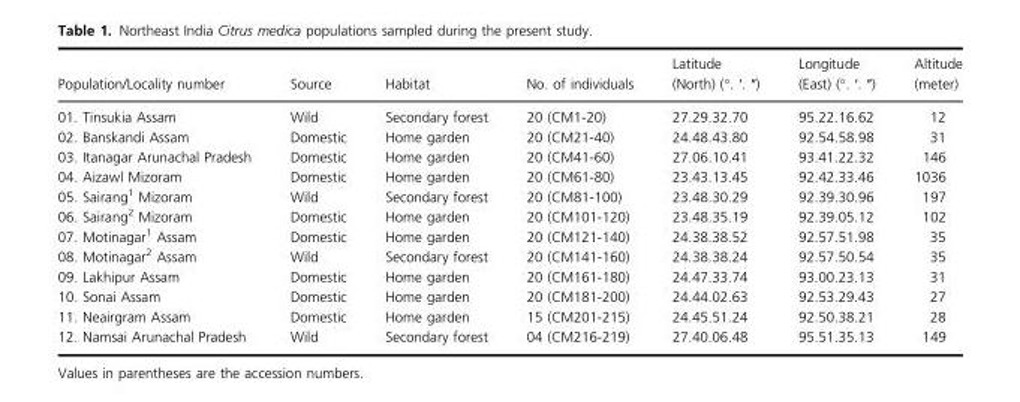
<table><thead><tr><td>Population/Locality number</td><td>Source</td><td>Habitat</td><td>No. of individuals</td><td>Latitude (North) (°. ʹ. ʺ)</td><td>Longitude (East) (°. ʹ. ʺ)</td><td>Altitude (meter)</td></tr></thead><tbody><tr><td>01. Tinsukia Assam</td><td>Wild</td><td>Secondary forest</td><td>20 (CM1-20)</td><td>27.29.32.70</td><td>95.22.16.62</td><td>12</td></tr><tr><td>02. Banskandi Assam</td><td>Domestic</td><td>Home garden</td><td>20 (CM21-40)</td><td>24.48.43.80</td><td>92.54.58.98</td><td>31</td></tr><tr><td>03. Itanagar Arunachal Pradesh</td><td>Domestic</td><td>Home garden</td><td>20 (CM41-60)</td><td>27.06.10.41</td><td>93.41.22.32</td><td>146</td></tr><tr><td>04. Aizawl Mizoram</td><td>Domestic</td><td>Home garden</td><td>20 (CM61-80)</td><td>23.43.13.45</td><td>92.42.33.46</td><td>1036</td></tr><tr><td>05. Sairang<sup>1</sup> Mizoram</td><td>Wild</td><td>Secondary forest</td><td>20 (CM81-100)</td><td>23.48.30.29</td><td>92.39.30.96</td><td>197</td></tr><tr><td>06. Sairang<sup>2</sup> Mizoram</td><td>Domestic</td><td>Home garden</td><td>20 (CM101-120)</td><td>23.48.35.19</td><td>92.39.05.12</td><td>102</td></tr><tr><td>07. Motinagar<sup>1</sup> Assam</td><td>Domestic</td><td>Home garden</td><td>20 (CM121-140)</td><td>24.38.38.52</td><td>92.57.51.98</td><td>35</td></tr><tr><td>08. Motinagar<sup>2</sup> Assam</td><td>Wild</td><td>Secondary forest</td><td>20 (CM141-160)</td><td>24.38.38.24</td><td>92.57.50.54</td><td>35</td></tr><tr><td>09. Lakhipur Assam</td><td>Domestic</td><td>Home garden</td><td>20 (CM161-180)</td><td>24.47.33.74</td><td>93.00.23.13</td><td>31</td></tr><tr><td>10. Sonai Assam</td><td>Domestic</td><td>Home garden</td><td>20 (CM181-200)</td><td>24.44.02.63</td><td>92.53.29.43</td><td>27</td></tr><tr><td>11. Neairgram Assam</td><td>Domestic</td><td>Home garden</td><td>15 (CM201-215)</td><td>24.45.51.24</td><td>92.50.38.21</td><td>28</td></tr><tr><td>12. Namsai Arunachal Pradesh</td><td>Wild</td><td>Secondary forest</td><td>04 (CM216-219)</td><td>27.40.06.48</td><td>95.51.35.13</td><td>149</td></tr></tbody></table>